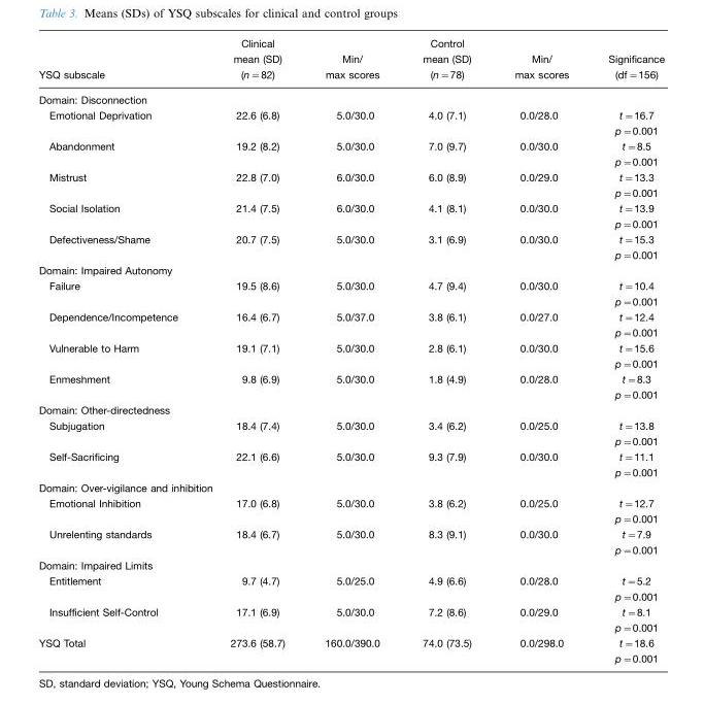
<table><thead><tr><td>YSQ subscale</td><td>Clinical mean (SD) (n=82)</td><td>Min/ max scores</td><td>Control mean (SD) (n=78)</td><td>Min/ max scores</td><td>Significance (df=156)</td></tr></thead><tbody><tr><td colspan="6">Domain: Disconnection</td></tr><tr><td>Emotional Deprivation</td><td>22.6 (6.8)</td><td>5.0/30.0</td><td>4.0 (7.1)</td><td>0.0/28.0</td><td>t=16.7 p=0.001</td></tr><tr><td>Abandonment</td><td>19.2 (8.2)</td><td>5.0/30.0</td><td>7.0 (9.7)</td><td>0.0/30.0</td><td>t=8.5 p=0.001</td></tr><tr><td>Mistrust</td><td>22.8 (7.0)</td><td>6.0/30.0</td><td>6.0 (8.9)</td><td>0.0/29.0</td><td>t=13.3 p=0.001</td></tr><tr><td>Social Isolation</td><td>21.4 (7.5)</td><td>6.0/30.0</td><td>4.1 (8.1)</td><td>0.0/30.0</td><td>t=13.9 p=0.001</td></tr><tr><td>Defectiveness/Shame</td><td>20.7 (7.5)</td><td>5.0/30.0</td><td>3.1 (6.9)</td><td>0.0/30.0</td><td>t=15.3 p=0.001</td></tr><tr><td colspan="6">Domain: Impaired Autonomy</td></tr><tr><td>Failure</td><td>19.5 (8.6)</td><td>5.0/30.0</td><td>4.7 (9.4)</td><td>0.0/30.0</td><td>t=10.4 p=0.001</td></tr><tr><td>Dependence/Incompetence</td><td>16.4 (6.7)</td><td>5.0/37.0</td><td>3.8 (6.1)</td><td>0.0/27.0</td><td>t=12.4 p=0.001</td></tr><tr><td>Vulnerable to Harm</td><td>19.1 (7.1)</td><td>5.0/30.0</td><td>2.8 (6.1)</td><td>0.0/30.0</td><td>t=15.6 p=0.001</td></tr><tr><td>Enmeshment</td><td>9.8 (6.9)</td><td>5.0/30.0</td><td>1.8 (4.9)</td><td>0.0/28.0</td><td>t=8.3 p=0.001</td></tr><tr><td colspan="6">Domain: Other-directedness</td></tr><tr><td>Subjugation</td><td>18.4 (7.4)</td><td>5.0/30.0</td><td>3.4 (6.2)</td><td>0.0/25.0</td><td>t=13.8 p=0.001</td></tr><tr><td>Self-Sacrificing</td><td>22.1 (6.6)</td><td>5.0/30.0</td><td>9.3 (7.9)</td><td>0.0/30.0</td><td>t=11.1 p=0.001</td></tr><tr><td colspan="6">Domain: Over-vigilance and inhibition</td></tr><tr><td>Emotional Inhibition</td><td>17.0 (6.8)</td><td>5.0/30.0</td><td>3.8 (6.2)</td><td>0.0/25.0</td><td>t=12.7 p=0.001</td></tr><tr><td>Unrelenting standards</td><td>18.4 (6.7)</td><td>5.0/30.0</td><td>8.3 (9.1)</td><td>0.0/30.0</td><td>t=7.9 p=0.001</td></tr><tr><td colspan="6">Domain: Impaired Limits</td></tr><tr><td>Entitlement</td><td>9.7 (4.7)</td><td>5.0/25.0</td><td>4.9 (6.6)</td><td>0.0/28.0</td><td>t=5.2 p=0.001</td></tr><tr><td>Insufficient Self-Control</td><td>17.1 (6.9)</td><td>5.0/30.0</td><td>7.2 (8.6)</td><td>0.0/29.0</td><td>t=8.1 p=0.001</td></tr><tr><td>YSQ Total</td><td>273.6 (58.7)</td><td>160.0/390.0</td><td>74.0 (73.5)</td><td>0.0/298.0</td><td>t=18.6 p=0.001</td></tr></tbody></table>